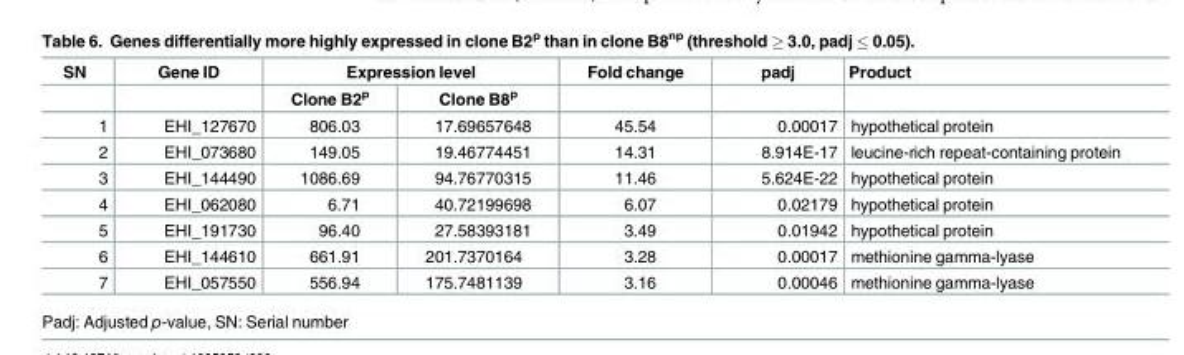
<table><thead><tr><td rowspan="2">SN</td><td rowspan="2">Gene ID</td><td colspan="2">Expression level</td><td rowspan="2">Fold change</td><td rowspan="2">padj</td><td rowspan="2">Product</td></tr><tr><td>Clone B2<sup>p</sup></td><td>Clone B8<sup>p</sup></td></tr></thead><tbody><tr><td>1</td><td>EHI_127670</td><td>806.03</td><td>17.69657648</td><td>45.54</td><td>0.00017</td><td>hypothetical protein</td></tr><tr><td>2</td><td>EHI_073680</td><td>149.05</td><td>19.46774451</td><td>14.31</td><td>8.914E-17</td><td>leucine-rich repeat-containing protein</td></tr><tr><td>3</td><td>EHI_144490</td><td>1086.69</td><td>94.76770315</td><td>11.46</td><td>5.624E-22</td><td>hypothetical protein</td></tr><tr><td>4</td><td>EHI_062080</td><td>6.71</td><td>40.72199698</td><td>6.07</td><td>0.02179</td><td>hypothetical protein</td></tr><tr><td>5</td><td>EHI_191730</td><td>96.40</td><td>27.58393181</td><td>3.49</td><td>0.01942</td><td>hypothetical protein</td></tr><tr><td>6</td><td>EHI_144610</td><td>661.91</td><td>201.7370164</td><td>3.28</td><td>0.00017</td><td>methionine gamma-lyase</td></tr><tr><td>7</td><td>EHI_057550</td><td>556.94</td><td>175.7481139</td><td>3.16</td><td>0.00046</td><td>methionine gamma-lyase</td></tr></tbody></table>